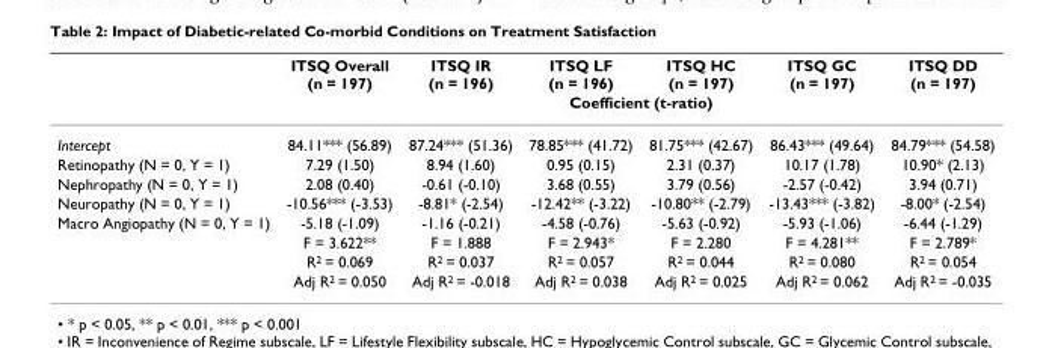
<table><thead><tr><td rowspan="2"></td><td>ITSQ Overall (n = 197)</td><td>ITSQ IR (n = 196)</td><td>ITSQ LF (n = 196)</td><td>ITSQ HC (n = 197)</td><td>ITSQ GC (n = 197)</td><td>ITSQ DD (n = 197)</td></tr><tr><td colspan="6">Coefficient (t-ratio)</td></tr></thead><tbody><tr><td>Intercept</td><td>84.11*** (56.89)</td><td>87.24*** (51.36)</td><td>78.85*** (41.72)</td><td>81.75*** (42.67)</td><td>86.43*** (49.64)</td><td>84.79*** (54.58)</td></tr><tr><td>Retinopathy (N = 0, Y = 1)</td><td>7.29 (1.50)</td><td>8.94 (1.60)</td><td>0.95 (0.15)</td><td>2.31 (0.37)</td><td>10.17 (1.78)</td><td>10.90* (2.13)</td></tr><tr><td>Nephropathy (N = 0, Y = 1)</td><td>2.08 (0.40)</td><td>-0.61 (-0.10)</td><td>3.68 (0.55)</td><td>3.79 (0.56)</td><td>-2.57 (-0.42)</td><td>3.94 (0.71)</td></tr><tr><td>Neuropathy (N = 0, Y = 1)</td><td>-10.56*** (-3.53)</td><td>-8.81* (-2.54)</td><td>-12.42** (-3.22)</td><td>-10.80** (-2.79)</td><td>-13.43*** (-3.82)</td><td>-8.00* (-2.54)</td></tr><tr><td rowspan="4">Macro Angiopathy (N = 0, Y = 1)</td><td>-5.18 (-1.09)</td><td>-1.16 (-0.21)</td><td>-4.58 (-0.76)</td><td>-5.63 (-0.92)</td><td>-5.93 (-1.06)</td><td>-6.44 (-1.29)</td></tr><tr><td>F = 3.622**</td><td>F = 1.888</td><td>F = 2.943*</td><td>F = 2.280</td><td>F = 4.281**</td><td>F = 2.789*</td></tr><tr><td>R<sup>2</sup> = 0.069</td><td>R<sup>2</sup> = 0.037</td><td>R<sup>2</sup> = 0.057</td><td>R<sup>2</sup> = 0.044</td><td>R<sup>2</sup> = 0.080</td><td>R<sup>2</sup> = 0.054</td></tr><tr><td>Adj R<sup>2</sup> = 0.050</td><td>Adj R<sup>2</sup> = -0.018</td><td>Adj R<sup>2</sup> = 0.038</td><td>Adj R<sup>2</sup> = 0.025</td><td>Adj R<sup>2</sup> = 0.062</td><td>Adj R<sup>2</sup> = -0.035</td></tr></tbody></table>